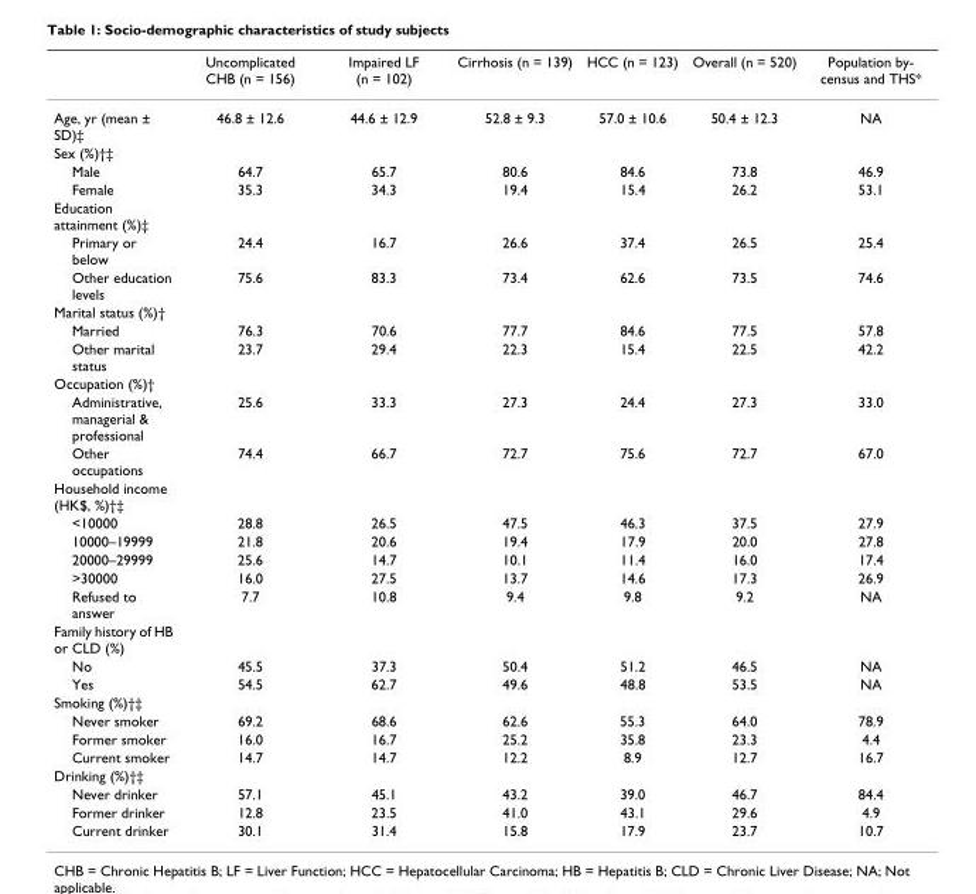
<table><thead><tr><td></td><td>Uncomplicated CHB (n = 156)</td><td>Impaired LF (n = 102)</td><td>Cirrhosis (n = 139)</td><td>HCC (n = 123)</td><td>Overall (n = 520)</td><td>Population by- census and THS*</td></tr></thead><tbody><tr><td>Age, yr (mean ± SD)‡</td><td>46.8 ± 12.6</td><td>44.6 ± 12.9</td><td>52.8 ± 9.3</td><td>57.0 ± 10.6</td><td>50.4 ± 12.3</td><td>NA</td></tr><tr><td colspan="7">Sex (%)†‡</td></tr><tr><td>Male</td><td>64.7</td><td>65.7</td><td>80.6</td><td>84.6</td><td>73.8</td><td>46.9</td></tr><tr><td>Female</td><td>35.3</td><td>34.3</td><td>19.4</td><td>15.4</td><td>26.2</td><td>53.1</td></tr><tr><td colspan="7">Education attainment (%)‡</td></tr><tr><td>Primary or below</td><td>24.4</td><td>16.7</td><td>26.6</td><td>37.4</td><td>26.5</td><td>25.4</td></tr><tr><td>Other education levels</td><td>75.6</td><td>83.3</td><td>73.4</td><td>62.6</td><td>73.5</td><td>74.6</td></tr><tr><td colspan="7">Marital status (%)†</td></tr><tr><td>Married</td><td>76.3</td><td>70.6</td><td>77.7</td><td>84.6</td><td>77.5</td><td>57.8</td></tr><tr><td>Other marital status</td><td>23.7</td><td>29.4</td><td>22.3</td><td>15.4</td><td>22.5</td><td>42.2</td></tr><tr><td colspan="7">Occupation (%)†</td></tr><tr><td>Administrative, managerial &amp; professional</td><td>25.6</td><td>33.3</td><td>27.3</td><td>24.4</td><td>27.3</td><td>33.0</td></tr><tr><td>Other occupations</td><td>74.4</td><td>66.7</td><td>72.7</td><td>75.6</td><td>72.7</td><td>67.0</td></tr><tr><td colspan="7">Household income (HK$, %)†‡</td></tr><tr><td>&lt;10000</td><td>28.8</td><td>26.5</td><td>47.5</td><td>46.3</td><td>37.5</td><td>27.9</td></tr><tr><td>10000–19999</td><td>21.8</td><td>20.6</td><td>19.4</td><td>17.9</td><td>20.0</td><td>27.8</td></tr><tr><td>20000–29999</td><td>25.6</td><td>14.7</td><td>10.1</td><td>11.4</td><td>16.0</td><td>17.4</td></tr><tr><td>&gt;30000</td><td>16.0</td><td>27.5</td><td>13.7</td><td>14.6</td><td>17.3</td><td>26.9</td></tr><tr><td>Refused to answer</td><td>7.7</td><td>10.8</td><td>9.4</td><td>9.8</td><td>9.2</td><td>NA</td></tr><tr><td colspan="7">Family history of HB or CLD (%)</td></tr><tr><td>No</td><td>45.5</td><td>37.3</td><td>50.4</td><td>51.2</td><td>46.5</td><td>NA</td></tr><tr><td>Yes</td><td>54.5</td><td>62.7</td><td>49.6</td><td>48.8</td><td>53.5</td><td>NA</td></tr><tr><td colspan="7">Smoking (%)†‡</td></tr><tr><td>Never smoker</td><td>69.2</td><td>68.6</td><td>62.6</td><td>55.3</td><td>64.0</td><td>78.9</td></tr><tr><td>Former smoker</td><td>16.0</td><td>16.7</td><td>25.2</td><td>35.8</td><td>23.3</td><td>4.4</td></tr><tr><td>Current smoker</td><td>14.7</td><td>14.7</td><td>12.2</td><td>8.9</td><td>12.7</td><td>16.7</td></tr><tr><td colspan="7">Drinking (%)†‡</td></tr><tr><td>Never drinker</td><td>57.1</td><td>45.1</td><td>43.2</td><td>39.0</td><td>46.7</td><td>84.4</td></tr><tr><td>Former drinker</td><td>12.8</td><td>23.5</td><td>41.0</td><td>43.1</td><td>29.6</td><td>4.9</td></tr><tr><td>Current drinker</td><td>30.1</td><td>31.4</td><td>15.8</td><td>17.9</td><td>23.7</td><td>10.7</td></tr></tbody></table>